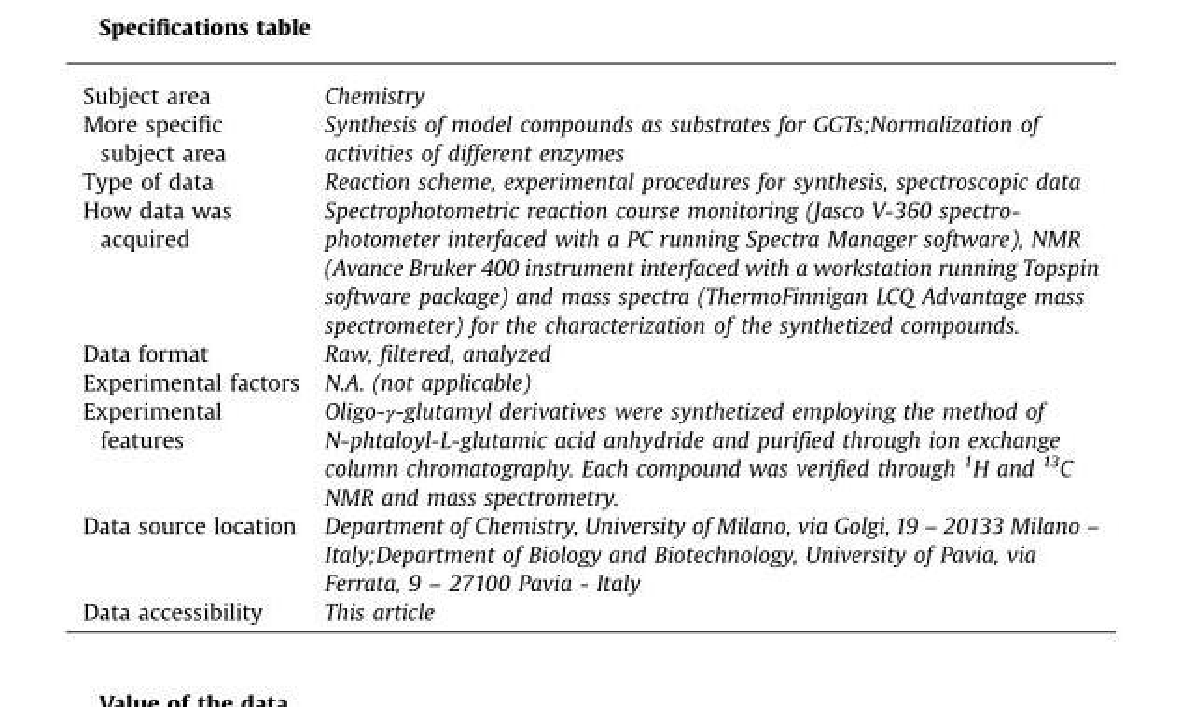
<table><thead><tr><td>Subject area</td><td>Chemistry</td></tr></thead><tbody><tr><td>More specific subject area</td><td>Synthesis of model compounds as substrates for GGTs;Normalization of activities of different enzymes</td></tr><tr><td>Type of data</td><td>Reaction scheme, experimental procedures for synthesis, spectroscopic data</td></tr><tr><td>How data was acquired</td><td>Spectrophotometric reaction course monitoring (Jasco V-360 spectro- photometer interfaced with a PC running Spectra Manager software), NMR (Avance Bruker 400 instrument interfaced with a workstation running Topspin software package) and mass spectra (ThermoFinnigan LCQ Advantage mass spectrometer) for the characterization of the synthetized compounds.</td></tr><tr><td>Data format</td><td>Raw, filtered, analyzed</td></tr><tr><td>Experimental factors</td><td>N.A. (not applicable)</td></tr><tr><td>Experimental features</td><td>Oligo-γ-glutamyl derivatives were synthetized employing the method of N-phtaloyl-L-glutamic acid anhydride and purified through ion exchange column chromatography. Each compound was verified through <sup>1</sup>H and <sup>13</sup>C NMR and mass spectrometry.</td></tr><tr><td>Data source location</td><td>Department of Chemistry, University of Milano, via Golgi, 19 – 20133 Milano – Italy;Department of Biology and Biotechnology, University of Pavia, via Ferrata, 9 – 27100 Pavia - Italy</td></tr><tr><td>Data accessibility</td><td>This article</td></tr></tbody></table>